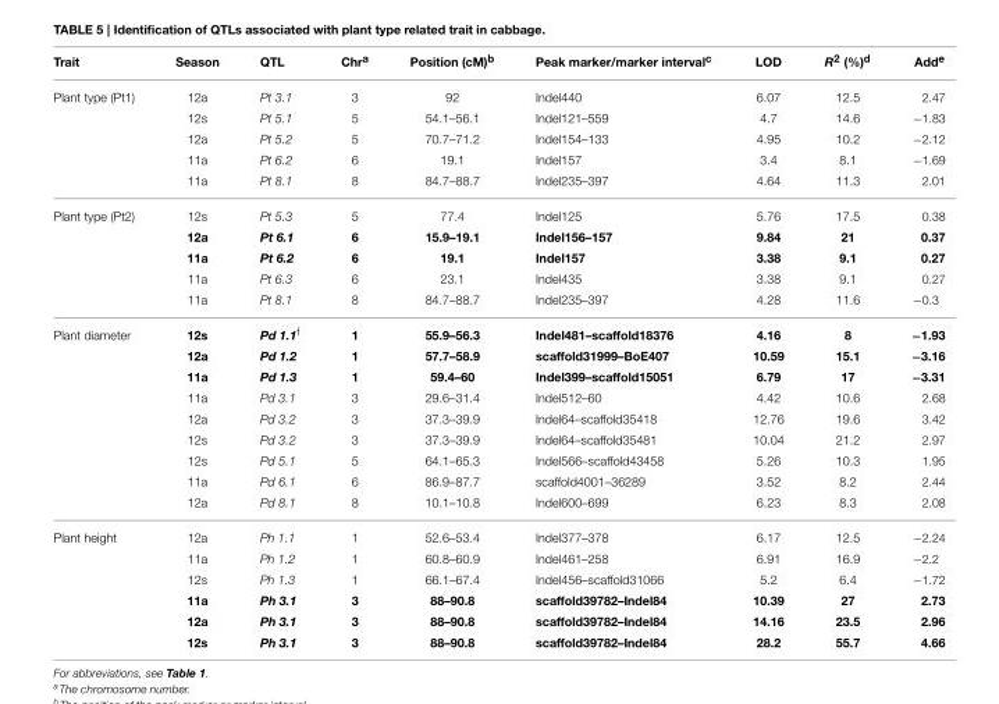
<table><thead><tr><td>Trait</td><td>Season</td><td>QTL</td><td>Chr<sup>a</sup></td><td>Position (cM)<sup>b</sup></td><td>Peak marker/marker interval<sup>c</sup></td><td>LOD</td><td>R<sup>2</sup> (%)<sup>d</sup></td><td>Add<sup>e</sup></td></tr></thead><tbody><tr><td rowspan="5">Plant type (Pt1)</td><td>12a</td><td>Pt 3.1</td><td>3</td><td>92</td><td>Indel440</td><td>6.07</td><td>12.5</td><td>2.47</td></tr><tr><td>12s</td><td>Pt 5.1</td><td>5</td><td>54.1–56.1</td><td>Indel121–559</td><td>4.7</td><td>14.6</td><td>−1.83</td></tr><tr><td>12a</td><td>Pt 5.2</td><td>5</td><td>70.7–71.2</td><td>Indel154–133</td><td>4.95</td><td>10.2</td><td>−2.12</td></tr><tr><td>11a</td><td>Pt 6.2</td><td>6</td><td>19.1</td><td>Indel157</td><td>3.4</td><td>8.1</td><td>−1.69</td></tr><tr><td>11a</td><td>Pt 8.1</td><td>8</td><td>84.7–88.7</td><td>Indel235–397</td><td>4.64</td><td>11.3</td><td>2.01</td></tr><tr><td rowspan="5">Plant type (Pt2)</td><td>12s</td><td>Pt 5.3</td><td>5</td><td>77.4</td><td>Indel125</td><td>5.76</td><td>17.5</td><td>0.38</td></tr><tr><td>12a</td><td>Pt 6.1</td><td>6</td><td>15.9–19.1</td><td>Indel156–157</td><td>9.84</td><td>21</td><td>0.37</td></tr><tr><td>11a</td><td>Pt 6.2</td><td>6</td><td>19.1</td><td>Indel157</td><td>3.38</td><td>9.1</td><td>0.27</td></tr><tr><td>11a</td><td>Pt 6.3</td><td>6</td><td>23.1</td><td>Indel435</td><td>3.38</td><td>9.1</td><td>0.27</td></tr><tr><td>11a</td><td>Pt 8.1</td><td>8</td><td>84.7–88.7</td><td>Indel235–397</td><td>4.28</td><td>11.6</td><td>−0.3</td></tr><tr><td rowspan="9">Plant diameter</td><td>12s</td><td>Pd 1.1<sup>f</sup></td><td>1</td><td>55.9–56.3</td><td>Indel481–scaffold18376</td><td>4.16</td><td>8</td><td>−1.93</td></tr><tr><td>12a</td><td>Pd 1.2</td><td>1</td><td>57.7–58.9</td><td>scaffold31999–BoE407</td><td>10.59</td><td>15.1</td><td>−3.16</td></tr><tr><td>11a</td><td>Pd 1.3</td><td>1</td><td>59.4–60</td><td>Indel399–scaffold15051</td><td>6.79</td><td>17</td><td>−3.31</td></tr><tr><td>11a</td><td>Pd 3.1</td><td>3</td><td>29.6–31.4</td><td>Indel512–60</td><td>4.42</td><td>10.6</td><td>2.68</td></tr><tr><td>12a</td><td>Pd 3.2</td><td>3</td><td>37.3–39.9</td><td>Indel64–scaffold35418</td><td>12.76</td><td>19.6</td><td>3.42</td></tr><tr><td>12s</td><td>Pd 3.2</td><td>3</td><td>37.3–39.9</td><td>Indel64–scaffold35481</td><td>10.04</td><td>21.2</td><td>2.97</td></tr><tr><td>12s</td><td>Pd 5.1</td><td>5</td><td>64.1–65.3</td><td>Indel566–scaffold43458</td><td>5.26</td><td>10.3</td><td>1.95</td></tr><tr><td>11a</td><td>Pd 6.1</td><td>6</td><td>86.9–87.7</td><td>scaffold4001–36289</td><td>3.52</td><td>8.2</td><td>2.44</td></tr><tr><td>12a</td><td>Pd 8.1</td><td>8</td><td>10.1–10.8</td><td>Indel600–699</td><td>6.23</td><td>8.3</td><td>2.08</td></tr><tr><td rowspan="6">Plant height</td><td>12a</td><td>Ph 1.1</td><td>1</td><td>52.6–53.4</td><td>Indel377–378</td><td>6.17</td><td>12.5</td><td>−2.24</td></tr><tr><td>11a</td><td>Ph 1.2</td><td>1</td><td>60.8–60.9</td><td>Indel461–258</td><td>6.91</td><td>16.9</td><td>−2.2</td></tr><tr><td>12s</td><td>Ph 1.3</td><td>1</td><td>66.1–67.4</td><td>Indel456–scaffold31066</td><td>5.2</td><td>6.4</td><td>−1.72</td></tr><tr><td>11a</td><td>Ph 3.1</td><td>3</td><td>88–90.8</td><td>scaffold39782–Indel84</td><td>10.39</td><td>27</td><td>2.73</td></tr><tr><td>12a</td><td>Ph 3.1</td><td>3</td><td>88–90.8</td><td>scaffold39782–Indel84</td><td>14.16</td><td>23.5</td><td>2.96</td></tr><tr><td>12s</td><td>Ph 3.1</td><td>3</td><td>88–90.8</td><td>scaffold39782–Indel84</td><td>28.2</td><td>55.7</td><td>4.66</td></tr></tbody></table>